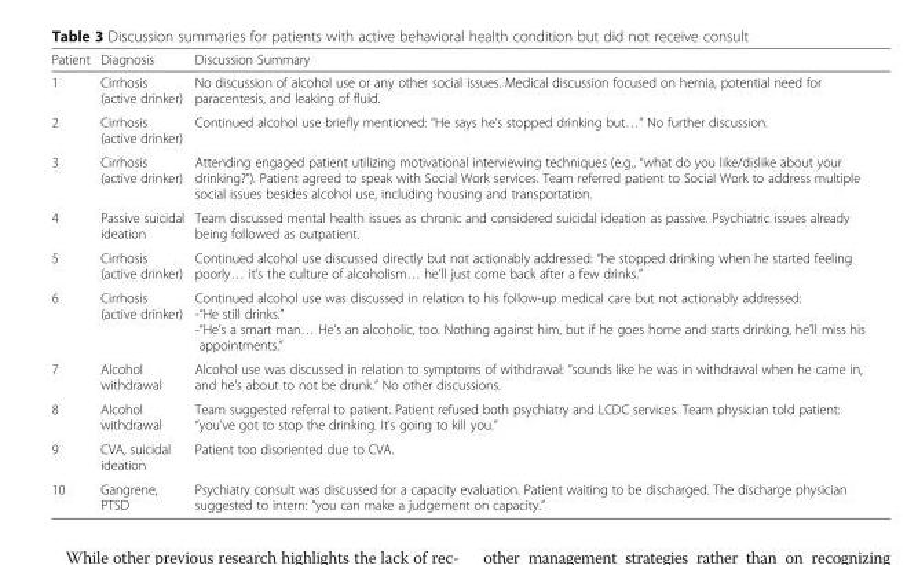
<table><thead><tr><td>Patient</td><td>Diagnosis</td><td>Discussion Summary</td></tr></thead><tbody><tr><td>1</td><td>Cirrhosis (active drinker)</td><td>No discussion of alcohol use or any other social issues. Medical discussion focused on hernia, potential need for paracentesis, and leaking of fluid.</td></tr><tr><td>2</td><td>Cirrhosis (active drinker)</td><td>Continued alcohol use briefly mentioned: “He says he’s stopped drinking but…” No further discussion.</td></tr><tr><td>3</td><td>Cirrhosis (active drinker)</td><td>Attending engaged patient utilizing motivational interviewing techniques (e.g., “what do you like/dislike about your drinking?”). Patient agreed to speak with Social Work services. Team referred patient to Social Work to address multiple social issues besides alcohol use, including housing and transportation.</td></tr><tr><td>4</td><td>Passive suicidal ideation</td><td>Team discussed mental health issues as chronic and considered suicidal ideation as passive. Psychiatric issues already being followed as outpatient.</td></tr><tr><td>5</td><td>Cirrhosis (active drinker)</td><td>Continued alcohol use discussed directly but not actionably addressed: “he stopped drinking when he started feeling poorly… it’s the culture of alcoholism… he’ll just come back after a few drinks.”</td></tr><tr><td>6</td><td>Cirrhosis (active drinker)</td><td>Continued alcohol use was discussed in relation to his follow-up medical care but not actionably addressed: -“He still drinks.” -“He’s a smart man… He’s an alcoholic, too. Nothing against him, but if he goes home and starts drinking, he’ll miss his appointments.”</td></tr><tr><td>7</td><td>Alcohol withdrawal</td><td>Alcohol use was discussed in relation to symptoms of withdrawal: “sounds like he was in withdrawal when he came in, and he’s about to not be drunk.” No other discussions.</td></tr><tr><td>8</td><td>Alcohol withdrawal</td><td>Team suggested referral to patient. Patient refused both psychiatry and LCDC services. Team physician told patient: “you’ve got to stop the drinking. It’s going to kill you.”</td></tr><tr><td>9</td><td>CVA, suicidal ideation</td><td>Patient too disoriented due to CVA.</td></tr><tr><td>10</td><td>Gangrene, PTSD</td><td>Psychiatry consult was discussed for a capacity evaluation. Patient waiting to be discharged. The discharge physician suggested to intern: “you can make a judgement on capacity.”</td></tr></tbody></table>